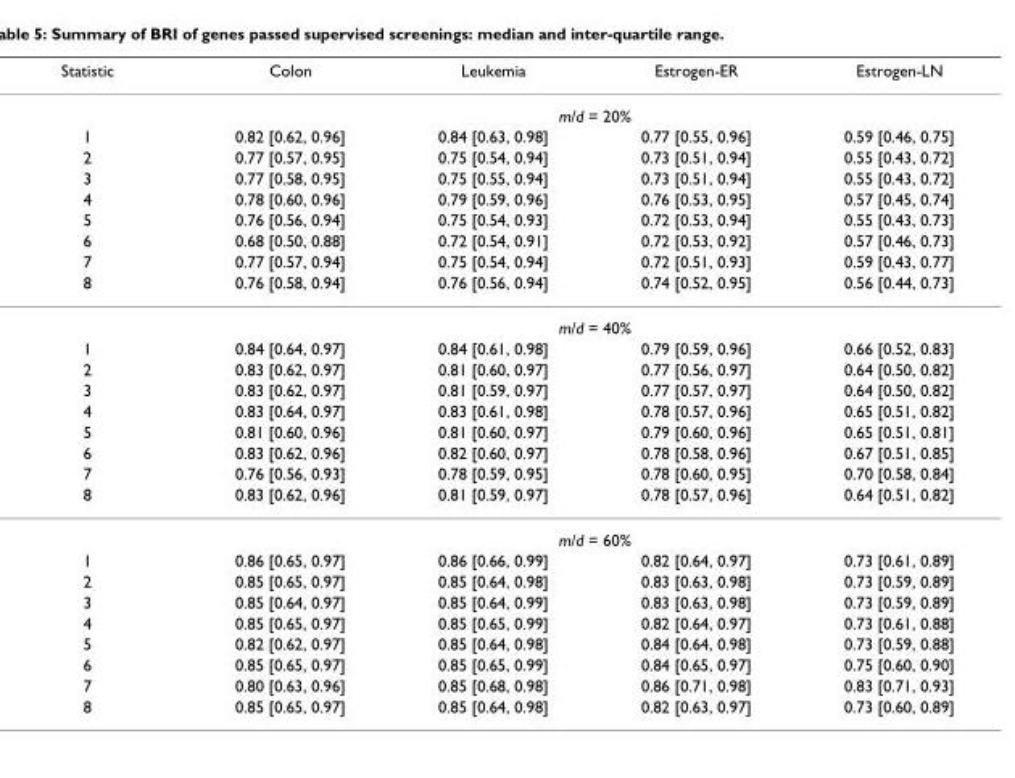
<table><thead><tr><td>Statistic</td><td>Colon</td><td>Leukemia</td><td>Estrogen-ER</td><td>Estrogen-LN</td></tr></thead><tbody><tr><td></td><td colspan="4">m/d = 20%</td></tr><tr><td>1</td><td>0.82 [0.62, 0.96]</td><td>0.84 [0.63, 0.98]</td><td>0.77 [0.55, 0.96]</td><td>0.59 [0.46, 0.75]</td></tr><tr><td>2</td><td>0.77 [0.57, 0.95]</td><td>0.75 [0.54, 0.94]</td><td>0.73 [0.51, 0.94]</td><td>0.55 [0.43, 0.72]</td></tr><tr><td>3</td><td>0.77 [0.58, 0.95]</td><td>0.75 [0.55, 0.94]</td><td>0.73 [0.51, 0.94]</td><td>0.55 [0.43, 0.72]</td></tr><tr><td>4</td><td>0.78 [0.60, 0.96]</td><td>0.79 [0.59, 0.96]</td><td>0.76 [0.53, 0.95]</td><td>0.57 [0.45, 0.74]</td></tr><tr><td>5</td><td>0.76 [0.56, 0.94]</td><td>0.75 [0.54, 0.93]</td><td>0.72 [0.53, 0.94]</td><td>0.55 [0.43, 0.73]</td></tr><tr><td>6</td><td>0.68 [0.50, 0.88]</td><td>0.72 [0.54, 0.91]</td><td>0.72 [0.53, 0.92]</td><td>0.57 [0.46, 0.73]</td></tr><tr><td>7</td><td>0.77 [0.57, 0.94]</td><td>0.75 [0.54, 0.94]</td><td>0.72 [0.51, 0.93]</td><td>0.59 [0.43, 0.77]</td></tr><tr><td rowspan="2">8</td><td>0.76 [0.58, 0.94]</td><td>0.76 [0.56, 0.94]</td><td>0.74 [0.52, 0.95]</td><td>0.56 [0.44, 0.73]</td></tr><tr><td colspan="4">m/d = 40%</td></tr><tr><td>1</td><td>0.84 [0.64, 0.97]</td><td>0.84 [0.61, 0.98]</td><td>0.79 [0.59, 0.96]</td><td>0.66 [0.52, 0.83]</td></tr><tr><td>2</td><td>0.83 [0.62, 0.97]</td><td>0.81 [0.60, 0.97]</td><td>0.77 [0.56, 0.97]</td><td>0.64 [0.50, 0.82]</td></tr><tr><td>3</td><td>0.83 [0.62, 0.97]</td><td>0.81 [0.59, 0.97]</td><td>0.77 [0.57, 0.97]</td><td>0.64 [0.50, 0.82]</td></tr><tr><td>4</td><td>0.83 [0.64, 0.97]</td><td>0.83 [0.61, 0.98]</td><td>0.78 [0.57, 0.96]</td><td>0.65 [0.51, 0.82]</td></tr><tr><td>5</td><td>0.81 [0.60, 0.96]</td><td>0.81 [0.60, 0.97]</td><td>0.79 [0.60, 0.96]</td><td>0.65 [0.51, 0.81]</td></tr><tr><td>6</td><td>0.83 [0.62, 0.96]</td><td>0.82 [0.60, 0.97]</td><td>0.78 [0.58, 0.96]</td><td>0.67 [0.51, 0.85]</td></tr><tr><td>7</td><td>0.76 [0.56, 0.93]</td><td>0.78 [0.59, 0.95]</td><td>0.78 [0.60, 0.95]</td><td>0.70 [0.58, 0.84]</td></tr><tr><td rowspan="2">8</td><td>0.83 [0.62, 0.96]</td><td>0.81 [0.59, 0.97]</td><td>0.78 [0.57, 0.96]</td><td>0.64 [0.51, 0.82]</td></tr><tr><td colspan="4">m/d = 60%</td></tr><tr><td>1</td><td>0.86 [0.65, 0.97]</td><td>0.86 [0.66, 0.99]</td><td>0.82 [0.64, 0.97]</td><td>0.73 [0.61, 0.89]</td></tr><tr><td>2</td><td>0.85 [0.65, 0.97]</td><td>0.85 [0.64, 0.98]</td><td>0.83 [0.63, 0.98]</td><td>0.73 [0.59, 0.89]</td></tr><tr><td>3</td><td>0.85 [0.64, 0.97]</td><td>0.85 [0.64, 0.99]</td><td>0.83 [0.63, 0.98]</td><td>0.73 [0.59, 0.89]</td></tr><tr><td>4</td><td>0.85 [0.65, 0.97]</td><td>0.85 [0.65, 0.99]</td><td>0.82 [0.64, 0.97]</td><td>0.73 [0.61, 0.88]</td></tr><tr><td>5</td><td>0.82 [0.62, 0.97]</td><td>0.85 [0.64, 0.98]</td><td>0.84 [0.64, 0.98]</td><td>0.73 [0.59, 0.88]</td></tr><tr><td>6</td><td>0.85 [0.65, 0.97]</td><td>0.85 [0.65, 0.99]</td><td>0.84 [0.65, 0.97]</td><td>0.75 [0.60, 0.90]</td></tr><tr><td>7</td><td>0.80 [0.63, 0.96]</td><td>0.85 [0.68, 0.98]</td><td>0.86 [0.71, 0.98]</td><td>0.83 [0.71, 0.93]</td></tr><tr><td>8</td><td>0.85 [0.65, 0.97]</td><td>0.85 [0.64, 0.98]</td><td>0.82 [0.63, 0.97]</td><td>0.73 [0.60, 0.89]</td></tr></tbody></table>